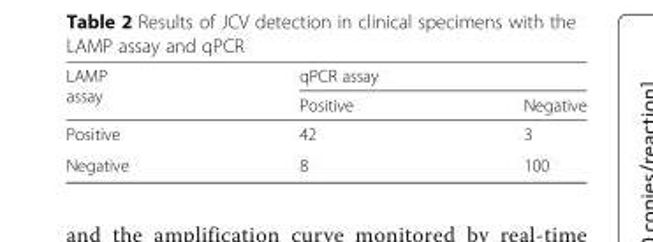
<table><thead><tr><td rowspan="2">LAMP assay</td><td colspan="2">qPCR assay</td></tr><tr><td>Positive</td><td>Negative</td></tr></thead><tbody><tr><td>Positive</td><td>42</td><td>3</td></tr><tr><td>Negative</td><td>8</td><td>100</td></tr></tbody></table>